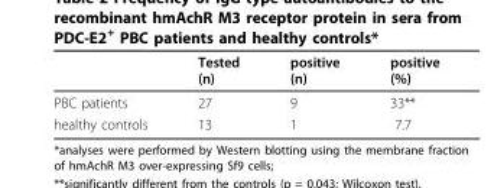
<table><thead><tr><td></td><td>Tested (n)</td><td>positive (n)</td><td>positive (%)</td></tr></thead><tbody><tr><td>PBC patients</td><td>27</td><td>9</td><td>33**</td></tr><tr><td>healthy controls</td><td>13</td><td>1</td><td>7.7</td></tr></tbody></table>